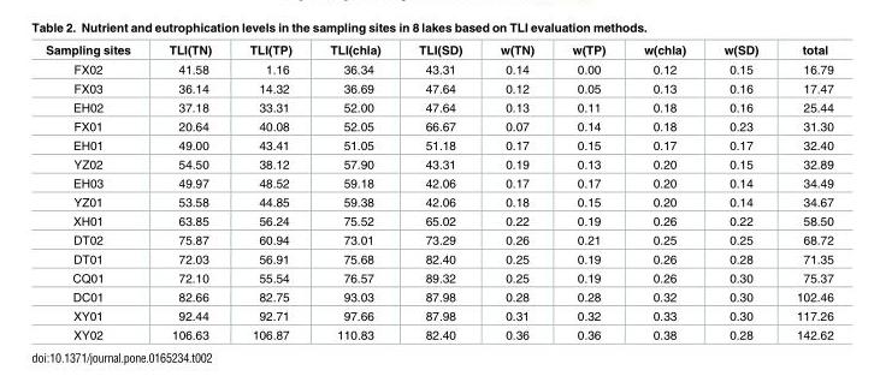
<table><thead><tr><td>Sampling sites</td><td>TLI(TN)</td><td>TLI(TP)</td><td>TLI(chla)</td><td>TLI(SD)</td><td>w(TN)</td><td>w(TP)</td><td>w(chla)</td><td>w(SD)</td><td>total</td></tr></thead><tbody><tr><td>FX02</td><td>41.58</td><td>1.16</td><td>36.34</td><td>43.31</td><td>0.14</td><td>0.00</td><td>0.12</td><td>0.15</td><td>16.79</td></tr><tr><td>FX03</td><td>36.14</td><td>14.32</td><td>36.69</td><td>47.64</td><td>0.12</td><td>0.05</td><td>0.13</td><td>0.16</td><td>17.47</td></tr><tr><td>EH02</td><td>37.18</td><td>33.31</td><td>52.00</td><td>47.64</td><td>0.13</td><td>0.11</td><td>0.18</td><td>0.16</td><td>25.44</td></tr><tr><td>FX01</td><td>20.64</td><td>40.08</td><td>52.05</td><td>66.67</td><td>0.07</td><td>0.14</td><td>0.18</td><td>0.23</td><td>31.30</td></tr><tr><td>EH01</td><td>49.00</td><td>43.41</td><td>51.05</td><td>51.18</td><td>0.17</td><td>0.15</td><td>0.17</td><td>0.17</td><td>32.40</td></tr><tr><td>YZ02</td><td>54.50</td><td>38.12</td><td>57.90</td><td>43.31</td><td>0.19</td><td>0.13</td><td>0.20</td><td>0.15</td><td>32.89</td></tr><tr><td>EH03</td><td>49.97</td><td>48.52</td><td>59.18</td><td>42.06</td><td>0.17</td><td>0.17</td><td>0.20</td><td>0.14</td><td>34.49</td></tr><tr><td>YZ01</td><td>53.58</td><td>44.85</td><td>59.38</td><td>42.06</td><td>0.18</td><td>0.15</td><td>0.20</td><td>0.14</td><td>34.67</td></tr><tr><td>XH01</td><td>63.85</td><td>56.24</td><td>75.52</td><td>65.02</td><td>0.22</td><td>0.19</td><td>0.26</td><td>0.22</td><td>58.50</td></tr><tr><td>DT02</td><td>75.87</td><td>60.94</td><td>73.01</td><td>73.29</td><td>0.26</td><td>0.21</td><td>0.25</td><td>0.25</td><td>68.72</td></tr><tr><td>DT01</td><td>72.03</td><td>56.91</td><td>75.68</td><td>82.40</td><td>0.25</td><td>0.19</td><td>0.26</td><td>0.28</td><td>71.35</td></tr><tr><td>CQ01</td><td>72.10</td><td>55.54</td><td>76.57</td><td>89.32</td><td>0.25</td><td>0.19</td><td>0.26</td><td>0.30</td><td>75.37</td></tr><tr><td>DC01</td><td>82.66</td><td>82.75</td><td>93.03</td><td>87.98</td><td>0.28</td><td>0.28</td><td>0.32</td><td>0.30</td><td>102.46</td></tr><tr><td>XY01</td><td>92.44</td><td>92.71</td><td>97.66</td><td>87.98</td><td>0.31</td><td>0.32</td><td>0.33</td><td>0.30</td><td>117.26</td></tr><tr><td>XY02</td><td>106.63</td><td>106.87</td><td>110.83</td><td>82.40</td><td>0.36</td><td>0.36</td><td>0.38</td><td>0.28</td><td>142.62</td></tr></tbody></table>